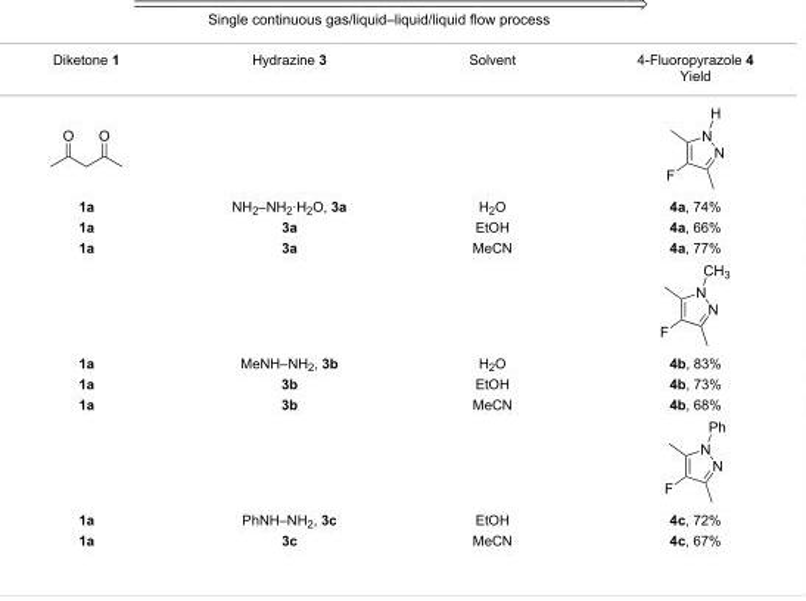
<table><tbody><tr><td>Diketone 1</td><td>Hydrazine 3</td><td>Solvent</td><td>4-Fluoropyrazole 4 Yield</td></tr><tr><td>1a</td><td>NH<sub>2</sub>–NH<sub>2</sub>·H<sub>2</sub>O, 3a</td><td>H<sub>2</sub>O</td><td>4a, 74%</td></tr><tr><td>1a</td><td>3a</td><td>EtOH</td><td>4a, 66%</td></tr><tr><td>1a</td><td>3a</td><td>MeCN</td><td>4a, 77%</td></tr><tr><td>1a</td><td>MeNH–NH<sub>2</sub>, 3b</td><td>H<sub>2</sub>O</td><td>4b, 83%</td></tr><tr><td>1a</td><td>3b</td><td>EtOH</td><td>4b, 73%</td></tr><tr><td>1a</td><td>3b</td><td>MeCN</td><td>4b, 68%</td></tr><tr><td>1a</td><td>PhNH–NH<sub>2</sub>, 3c</td><td>EtOH</td><td>4c, 72%</td></tr><tr><td>1a</td><td>3c</td><td>MeCN</td><td>4c, 67%</td></tr></tbody></table>